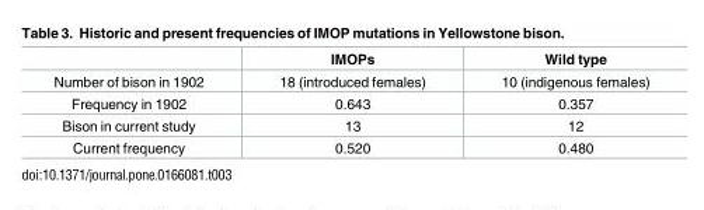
<table><thead><tr><td></td><td>IMOPs</td><td>Wild type</td></tr></thead><tbody><tr><td>Number of bison in 1902</td><td>18 (introduced females)</td><td>10 (indigenous females)</td></tr><tr><td>Frequency in 1902</td><td>0.643</td><td>0.357</td></tr><tr><td>Bison in current study</td><td>13</td><td>12</td></tr><tr><td>Current frequency</td><td>0.520</td><td>0.480</td></tr></tbody></table>